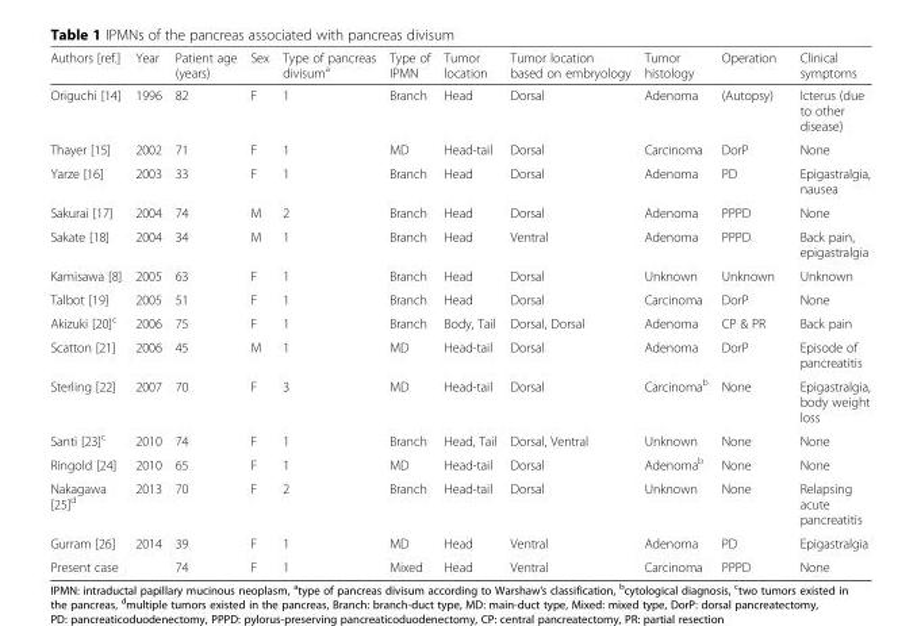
<table><thead><tr><td>Authors [ref.]</td><td>Year</td><td>Patient age (years)</td><td>Sex</td><td>Type of pancreas divisum<sup>a</sup></td><td>Type of IPMN</td><td>Tumor location</td><td>Tumor location based on embryology</td><td>Tumor histology</td><td>Operation</td><td>Clinical symptoms</td></tr></thead><tbody><tr><td>Origuchi [14]</td><td>1996</td><td>82</td><td>F</td><td>1</td><td>Branch</td><td>Head</td><td>Dorsal</td><td>Adenoma</td><td>(Autopsy)</td><td>Icterus (due to other disease)</td></tr><tr><td>Thayer [15]</td><td>2002</td><td>71</td><td>F</td><td>1</td><td>MD</td><td>Head-tail</td><td>Dorsal</td><td>Carcinoma</td><td>DorP</td><td>None</td></tr><tr><td>Yarze [16]</td><td>2003</td><td>33</td><td>F</td><td>1</td><td>Branch</td><td>Head</td><td>Dorsal</td><td>Adenoma</td><td>PD</td><td>Epigastralgia, nausea</td></tr><tr><td>Sakurai [17]</td><td>2004</td><td>74</td><td>M</td><td>2</td><td>Branch</td><td>Head</td><td>Dorsal</td><td>Adenoma</td><td>PPPD</td><td>None</td></tr><tr><td>Sakate [18]</td><td>2004</td><td>34</td><td>M</td><td>1</td><td>Branch</td><td>Head</td><td>Ventral</td><td>Adenoma</td><td>PPPD</td><td>Back pain, epigastralgia</td></tr><tr><td>Kamisawa [8]</td><td>2005</td><td>63</td><td>F</td><td>1</td><td>Branch</td><td>Head</td><td>Dorsal</td><td>Unknown</td><td>Unknown</td><td>Unknown</td></tr><tr><td>Talbot [19]</td><td>2005</td><td>51</td><td>F</td><td>1</td><td>Branch</td><td>Head</td><td>Dorsal</td><td>Carcinoma</td><td>DorP</td><td>None</td></tr><tr><td>Akizuki [20]<sup>c</sup></td><td>2006</td><td>75</td><td>F</td><td>1</td><td>Branch</td><td>Body, Tail</td><td>Dorsal, Dorsal</td><td>Adenoma</td><td>CP &amp; PR</td><td>Back pain</td></tr><tr><td>Scatton [21]</td><td>2006</td><td>45</td><td>M</td><td>1</td><td>MD</td><td>Head-tail</td><td>Dorsal</td><td>Adenoma</td><td>DorP</td><td>Episode of pancreatitis</td></tr><tr><td>Sterling [22]</td><td>2007</td><td>70</td><td>F</td><td>3</td><td>MD</td><td>Head-tail</td><td>Dorsal</td><td>Carcinoma<sup>b</sup></td><td>None</td><td>Epigastralgia, body weight loss</td></tr><tr><td>Santi [23]<sup>c</sup></td><td>2010</td><td>74</td><td>F</td><td>1</td><td>Branch</td><td>Head, Tail</td><td>Dorsal, Ventral</td><td>Unknown</td><td>None</td><td>None</td></tr><tr><td>Ringold [24]</td><td>2010</td><td>65</td><td>F</td><td>1</td><td>MD</td><td>Head-tail</td><td>Dorsal</td><td>Adenoma<sup>b</sup></td><td>None</td><td>None</td></tr><tr><td>Nakagawa [25]<sup>d</sup></td><td>2013</td><td>70</td><td>F</td><td>2</td><td>Branch</td><td>Head-tail</td><td>Dorsal</td><td>Unknown</td><td>None</td><td>Relapsing acute pancreatitis</td></tr><tr><td>Gurram [26]</td><td>2014</td><td>39</td><td>F</td><td>1</td><td>MD</td><td>Head</td><td>Ventral</td><td>Adenoma</td><td>PD</td><td>Epigastralgia</td></tr><tr><td>Present case</td><td></td><td>74</td><td>F</td><td>1</td><td>Mixed</td><td>Head</td><td>Ventral</td><td>Carcinoma</td><td>PPPD</td><td>None</td></tr></tbody></table>